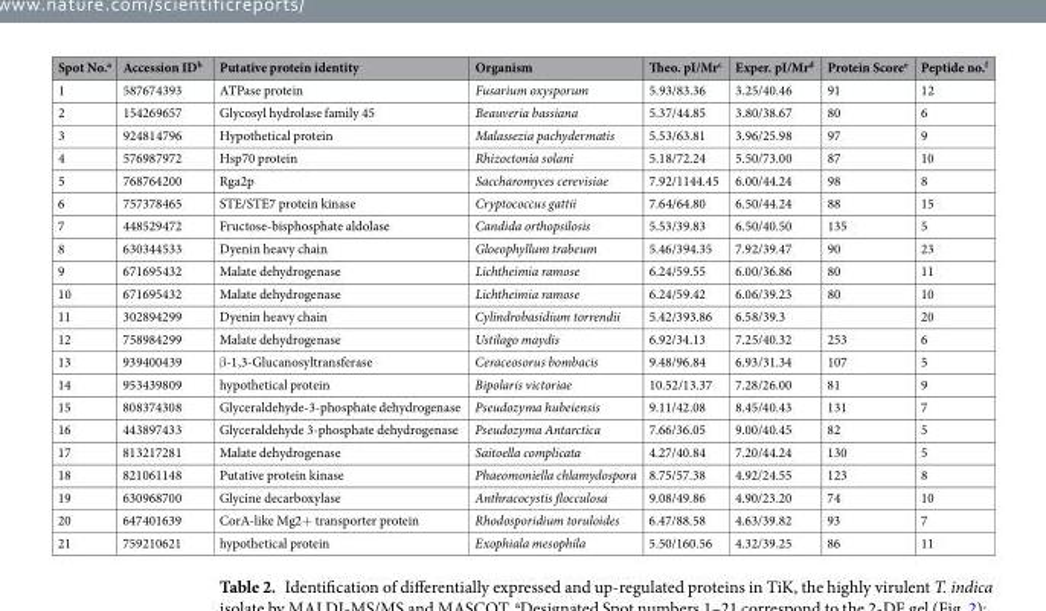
<table><thead><tr><td>Spot No.<sup>a</sup></td><td>Accession ID<sup>b</sup></td><td>Putative protein identity</td><td>Organism</td><td>Theo. pI/Mr<sup>c</sup></td><td>Exper. pI/Mr<sup>d</sup></td><td>Protein Score<sup>e</sup></td><td>Peptide no.<sup>f</sup></td></tr></thead><tbody><tr><td>1</td><td>587674393</td><td>ATPase protein</td><td>Fusarium oxysporum</td><td>5.93/83.36</td><td>3.25/40.46</td><td>91</td><td>12</td></tr><tr><td>2</td><td>154269657</td><td>Glycosyl hydrolase family 45</td><td>Beauveria bassiana</td><td>5.37/44.85</td><td>3.80/38.67</td><td>80</td><td>6</td></tr><tr><td>3</td><td>924814796</td><td>Hypothetical protein</td><td>Malassezia pachydermatis</td><td>5.53/63.81</td><td>3.96/25.98</td><td>97</td><td>9</td></tr><tr><td>4</td><td>576987972</td><td>Hsp70 protein</td><td>Rhizoctonia solani</td><td>5.18/72.24</td><td>5.50/73.00</td><td>87</td><td>10</td></tr><tr><td>5</td><td>768764200</td><td>Rga2p</td><td>Saccharomyces cerevisiae</td><td>7.92/1144.45</td><td>6.00/44.24</td><td>98</td><td>8</td></tr><tr><td>6</td><td>757378465</td><td>STE/STE7 protein kinase</td><td>Cryptococcus gattii</td><td>7.64/64.80</td><td>6.50/44.24</td><td>88</td><td>15</td></tr><tr><td>7</td><td>448529472</td><td>Fructose-bisphosphate aldolase</td><td>Candida orthopsilosis</td><td>5.53/39.83</td><td>6.50/40.50</td><td>135</td><td>5</td></tr><tr><td>8</td><td>630344533</td><td>Dyenin heavy chain</td><td>Gloeophyllum trabeum</td><td>5.46/394.35</td><td>7.92/39.47</td><td>90</td><td>23</td></tr><tr><td>9</td><td>671695432</td><td>Malate dehydrogenase</td><td>Lichtheimia ramose</td><td>6.24/59.55</td><td>6.00/36.86</td><td>80</td><td>11</td></tr><tr><td>10</td><td>671695432</td><td>Malate dehydrogenase</td><td>Lichtheimia ramose</td><td>6.24/59.42</td><td>6.06/39.23</td><td>80</td><td>10</td></tr><tr><td>11</td><td>302894299</td><td>Dyenin heavy chain</td><td>Cylindrobasidium torrendii</td><td>5.42/393.86</td><td>6.58/39.3</td><td></td><td>20</td></tr><tr><td>12</td><td>758984299</td><td>Malate dehydrogenase</td><td>Ustilago maydis</td><td>6.92/34.13</td><td>7.25/40.32</td><td>253</td><td>6</td></tr><tr><td>13</td><td>939400439</td><td>β-1,3-Glucanosyltransferase</td><td>Ceraceosorus bombacis</td><td>9.48/96.84</td><td>6.93/31.34</td><td>107</td><td>5</td></tr><tr><td>14</td><td>953439809</td><td>hypothetical protein</td><td>Bipolaris victoriae</td><td>10.52/13.37</td><td>7.28/26.00</td><td>81</td><td>9</td></tr><tr><td>15</td><td>808374308</td><td>Glyceraldehyde-3-phosphate dehydrogenase</td><td>Pseudozyma hubeiensis</td><td>9.11/42.08</td><td>8.45/40.43</td><td>131</td><td>7</td></tr><tr><td>16</td><td>443897433</td><td>Glyceraldehyde 3-phosphate dehydrogenase</td><td>Pseudozyma Antarctica</td><td>7.66/36.05</td><td>9.00/40.45</td><td>82</td><td>5</td></tr><tr><td>17</td><td>813217281</td><td>Malate dehydrogenase</td><td>Saitoella complicata</td><td>4.27/40.84</td><td>7.20/44.24</td><td>130</td><td>5</td></tr><tr><td>18</td><td>821061148</td><td>Putative protein kinase</td><td>Phaeomoniella chlamydospora</td><td>8.75/57.38</td><td>4.92/24.55</td><td>123</td><td>8</td></tr><tr><td>19</td><td>630968700</td><td>Glycine decarboxylase</td><td>Anthracocystis flocculosa</td><td>9.08/49.86</td><td>4.90/23.20</td><td>74</td><td>10</td></tr><tr><td>20</td><td>647401639</td><td>CorA-like Mg2+ transporter protein</td><td>Rhodosporidium toruloides</td><td>6.47/88.58</td><td>4.63/39.82</td><td>93</td><td>7</td></tr><tr><td>21</td><td>759210621</td><td>hypothetical protein</td><td>Exophiala mesophila</td><td>5.50/160.56</td><td>4.32/39.25</td><td>86</td><td>11</td></tr></tbody></table>